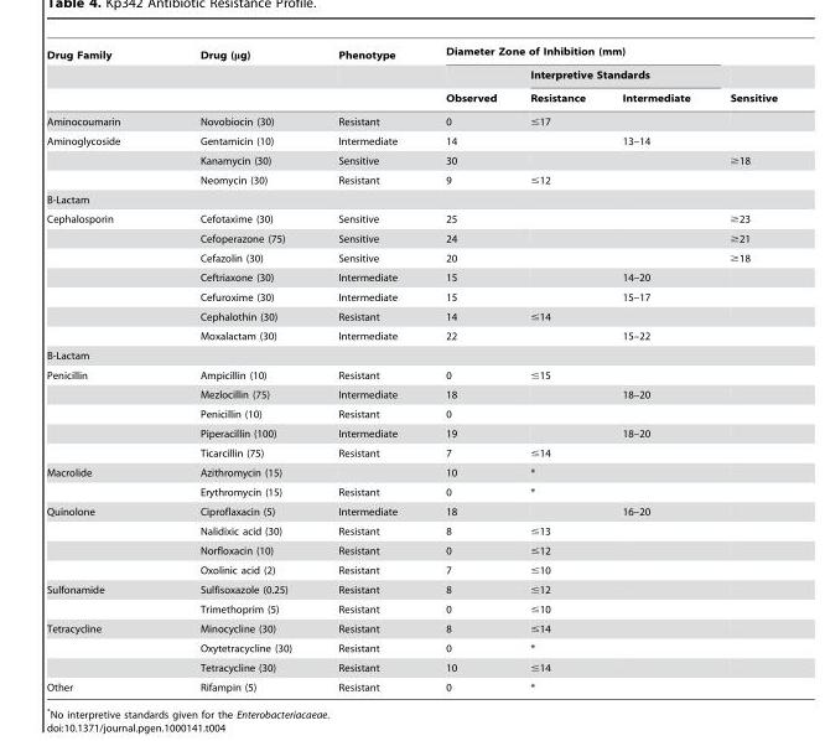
<table><thead><tr><td rowspan="3">Drug Family</td><td rowspan="3">Drug (μg)</td><td rowspan="3">Phenotype</td><td colspan="3">Diameter Zone of Inhibition (mm)</td><td rowspan="3">Sensitive</td></tr><tr><td rowspan="2">Observed</td><td colspan="2">Interpretive Standards</td></tr><tr><td>Resistance</td><td>Intermediate</td></tr></thead><tbody><tr><td>Aminocoumarin</td><td>Novobiocin (30)</td><td>Resistant</td><td>0</td><td>≤17</td><td></td><td></td></tr><tr><td rowspan="3">Aminoglycoside</td><td>Gentamicin (10)</td><td>Intermediate</td><td>14</td><td></td><td>13–14</td><td></td></tr><tr><td>Kanamycin (30)</td><td>Sensitive</td><td>30</td><td></td><td></td><td>≥18</td></tr><tr><td>Neomycin (30)</td><td>Resistant</td><td>9</td><td>≤12</td><td></td><td></td></tr><tr><td colspan="7">B-Lactam</td></tr><tr><td rowspan="7">Cephalosporin</td><td>Cefotaxime (30)</td><td>Sensitive</td><td>25</td><td></td><td></td><td>≥23</td></tr><tr><td>Cefoperazone (75)</td><td>Sensitive</td><td>24</td><td></td><td></td><td>≥21</td></tr><tr><td>Cefazolin (30)</td><td>Sensitive</td><td>20</td><td></td><td></td><td>≥18</td></tr><tr><td>Ceftriaxone (30)</td><td>Intermediate</td><td>15</td><td></td><td>14–20</td><td></td></tr><tr><td>Cefuroxime (30)</td><td>Intermediate</td><td>15</td><td></td><td>15–17</td><td></td></tr><tr><td>Cephalothin (30)</td><td>Resistant</td><td>14</td><td>≤14</td><td></td><td></td></tr><tr><td>Moxalactam (30)</td><td>Intermediate</td><td>22</td><td></td><td>15–22</td><td></td></tr><tr><td colspan="7">B-Lactam</td></tr><tr><td rowspan="5">Penicillin</td><td>Ampicillin (10)</td><td>Resistant</td><td>0</td><td>≤15</td><td></td><td></td></tr><tr><td>Mezlocillin (75)</td><td>Intermediate</td><td>18</td><td></td><td>18–20</td><td></td></tr><tr><td>Penicillin (10)</td><td>Resistant</td><td>0</td><td></td><td></td><td></td></tr><tr><td>Piperacillin (100)</td><td>Intermediate</td><td>19</td><td></td><td>18–20</td><td></td></tr><tr><td>Ticarcillin (75)</td><td>Resistant</td><td>7</td><td>≤14</td><td></td><td></td></tr><tr><td rowspan="2">Macrolide</td><td>Azithromycin (15)</td><td></td><td>10</td><td>*</td><td></td><td></td></tr><tr><td>Erythromycin (15)</td><td>Resistant</td><td>0</td><td>*</td><td></td><td></td></tr><tr><td rowspan="4">Quinolone</td><td>Ciproflaxacin (5)</td><td>Intermediate</td><td>18</td><td></td><td>16–20</td><td></td></tr><tr><td>Nalidixic acid (30)</td><td>Resistant</td><td>8</td><td>≤13</td><td></td><td></td></tr><tr><td>Norfloxacin (10)</td><td>Resistant</td><td>0</td><td>≤12</td><td></td><td></td></tr><tr><td>Oxolinic acid (2)</td><td>Resistant</td><td>7</td><td>≤10</td><td></td><td></td></tr><tr><td rowspan="2">Sulfonamide</td><td>Sulfisoxazole (0.25)</td><td>Resistant</td><td>8</td><td>≤12</td><td></td><td></td></tr><tr><td>Trimethoprim (5)</td><td>Resistant</td><td>0</td><td>≤10</td><td></td><td></td></tr><tr><td rowspan="3">Tetracycline</td><td>Minocycline (30)</td><td>Resistant</td><td>8</td><td>≤14</td><td></td><td></td></tr><tr><td>Oxytetracycline (30)</td><td>Resistant</td><td>0</td><td>*</td><td></td><td></td></tr><tr><td>Tetracycline (30)</td><td>Resistant</td><td>10</td><td>≤14</td><td></td><td></td></tr><tr><td>Other</td><td>Rifampin (5)</td><td>Resistant</td><td>0</td><td>*</td><td></td><td></td></tr></tbody></table>